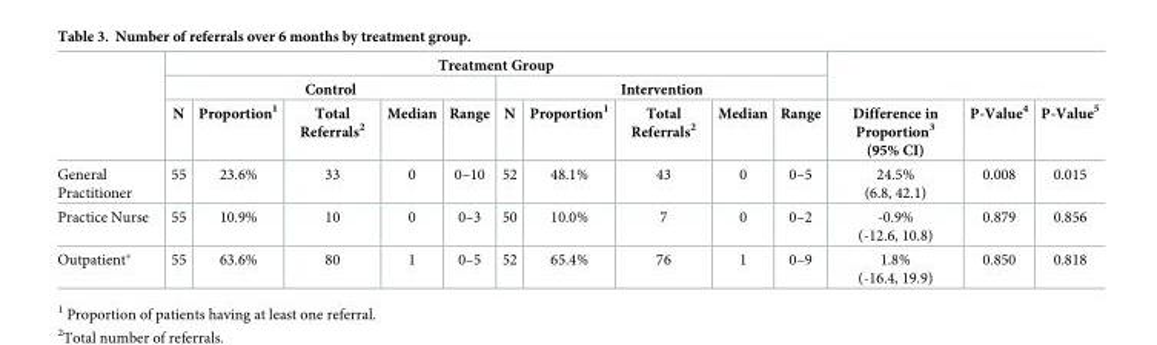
<table><thead><tr><td rowspan="3"></td><td colspan="10">Treatment Group</td><td rowspan="3">Difference in Proportion<sup>3</sup> (95% CI)</td><td rowspan="3">P-Value<sup>4</sup></td><td rowspan="3">P-Value<sup>5</sup></td></tr><tr><td colspan="5">Control</td><td colspan="5">Intervention</td></tr><tr><td>N</td><td>Proportion<sup>1</sup></td><td>Total Referrals<sup>2</sup></td><td>Median</td><td>Range</td><td>N</td><td>Proportion<sup>1</sup></td><td>Total Referrals<sup>2</sup></td><td>Median</td><td>Range</td></tr></thead><tbody><tr><td>General Practitioner</td><td>55</td><td>23.6%</td><td>33</td><td>0</td><td>0–10</td><td>52</td><td>48.1%</td><td>43</td><td>0</td><td>0–5</td><td>24.5% (6.8, 42.1)</td><td>0.008</td><td>0.015</td></tr><tr><td>Practice Nurse</td><td>55</td><td>10.9%</td><td>10</td><td>0</td><td>0–3</td><td>50</td><td>10.0%</td><td>7</td><td>0</td><td>0–2</td><td>-0.9% (-12.6, 10.8)</td><td>0.879</td><td>0.856</td></tr><tr><td>Outpatient*</td><td>55</td><td>63.6%</td><td>80</td><td>1</td><td>0–5</td><td>52</td><td>65.4%</td><td>76</td><td>1</td><td>0–9</td><td>1.8% (-16.4, 19.9)</td><td>0.850</td><td>0.818</td></tr></tbody></table>